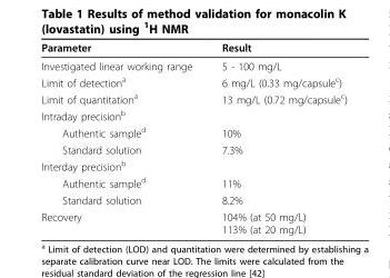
<table><thead><tr><td>Parameter</td><td>Result</td></tr></thead><tbody><tr><td>Investigated linear working range</td><td>5 - 100 mg/L</td></tr><tr><td>Limit of detection<sup>a</sup></td><td>6 mg/L (0.33 mg/capsule<sup>c</sup>)</td></tr><tr><td>Limit of quantitation<sup>a</sup></td><td>13 mg/L (0.72 mg/capsule<sup>c</sup>)</td></tr><tr><td colspan="2">Intraday precision<sup>b</sup></td></tr><tr><td>Authentic sample<sup>d</sup></td><td>10%</td></tr><tr><td>Standard solution</td><td>7.3%</td></tr><tr><td colspan="2">Interday precision<sup>b</sup></td></tr><tr><td>Authentic sample<sup>d</sup></td><td>11%</td></tr><tr><td>Standard solution</td><td>8.2%</td></tr><tr><td>Recovery</td><td>104% (at 50 mg/L) 113% (at 20 mg/L)</td></tr></tbody></table>